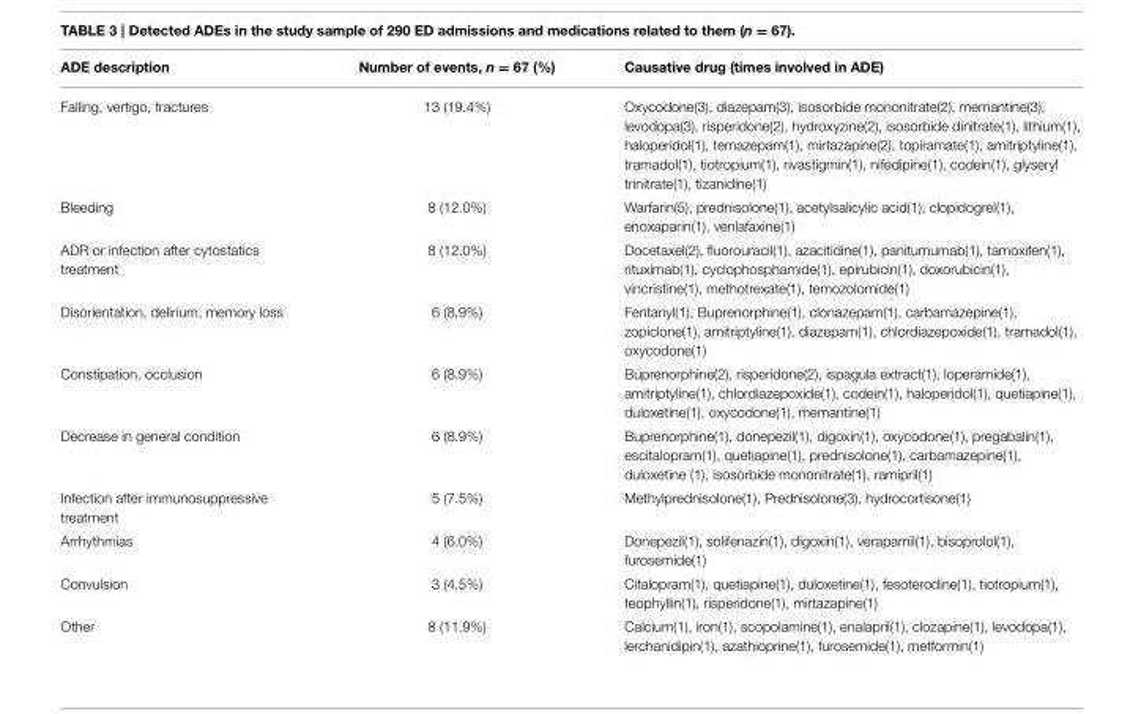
<table><thead><tr><td>ADE description</td><td>Number of events, n = 67 (%)</td><td>Causative drug (times involved in ADE)</td></tr></thead><tbody><tr><td>Falling, vertigo, fractures</td><td>13 (19.4%)</td><td>Oxycodone(3), diazepam(3), isosorbide mononitrate(2), memantine(3), levodopa(3), risperidone(2), hydroxyzine(2), isosorbide dinitrate(1), lithium(1), haloperidol(1), temazepam(1), mirtazapine(2), topiramate(1), amitriptyline(1), tramadol(1), tiotropium(1), rivastigmin(1), nifedipine(1), codein(1), glyseryl trinitrate(1), tizanidine(1)</td></tr><tr><td>Bleeding</td><td>8 (12.0%)</td><td>Warfarin(5), prednisolone(1), acetylsalicylic acid(1), clopidogrel(1), enoxaparin(1), venlafaxine(1)</td></tr><tr><td>ADR or infection after cytostatics treatment</td><td>8 (12.0%)</td><td>Docetaxel(2), fluorouracil(1), azacitidine(1), panitumumab(1), tamoxifen(1), rituximab(1), cyclophosphamide(1), epirubicin(1), doxorubicin(1), vincristine(1), methotrexate(1), temozolomide(1)</td></tr><tr><td>Disorientation, delirium, memory loss</td><td>6 (8,9%)</td><td>Fentanyl(1), Buprenorphine(1), clonazepam(1), carbamazepine(1), zopiclone(1), amitriptyline(1), diazepam(1), chlordiazepoxide(1), tramadol(1), oxycodone(1)</td></tr><tr><td>Constipation, occlusion</td><td>6 (8.9%)</td><td>Buprenorphine(2), risperidone(2), ispagula extract(1), loperamide(1), amitriptyline(1), chlordiazepoxide(1), codein(1), haloperidol(1), quetiapine(1), duloxetine(1), oxycodone(1), memantine(1)</td></tr><tr><td>Decrease in general condition</td><td>6 (8.9%)</td><td>Buprenorphine(1), donepezil(1), digoxin(1), oxycodone(1), pregabalin(1), escitalopram(1), quetiapine(1), prednisolone(1), carbamazepine(1), duloxetine (1), isosorbide mononitrate(1), ramipril(1)</td></tr><tr><td>Infection after immunosuppressive treatment</td><td>5 (7.5%)</td><td>Methylprednisolone(1), Prednisolone(3), hydrocortisone(1)</td></tr><tr><td>Arrhythmias</td><td>4 (6.0%)</td><td>Donepezil(1), solifenazin(1), digoxin(1), verapamil(1), bisoprolol(1), furosemide(1)</td></tr><tr><td>Convulsion</td><td>3 (4.5%)</td><td>Citalopram(1), quetiapine(1), duloxetine(1), fesoterodine(1), tiotropium(1), teophyllin(1), risperidone(1), mirtazapine(1)</td></tr><tr><td>Other</td><td>8 (11.9%)</td><td>Calcium(1), iron(1), scopolamine(1), enalapril(1), clozapine(1), levodopa(1), lerchanidipin(1), azathioprine(1), furosemide(1), metformin(1)</td></tr></tbody></table>